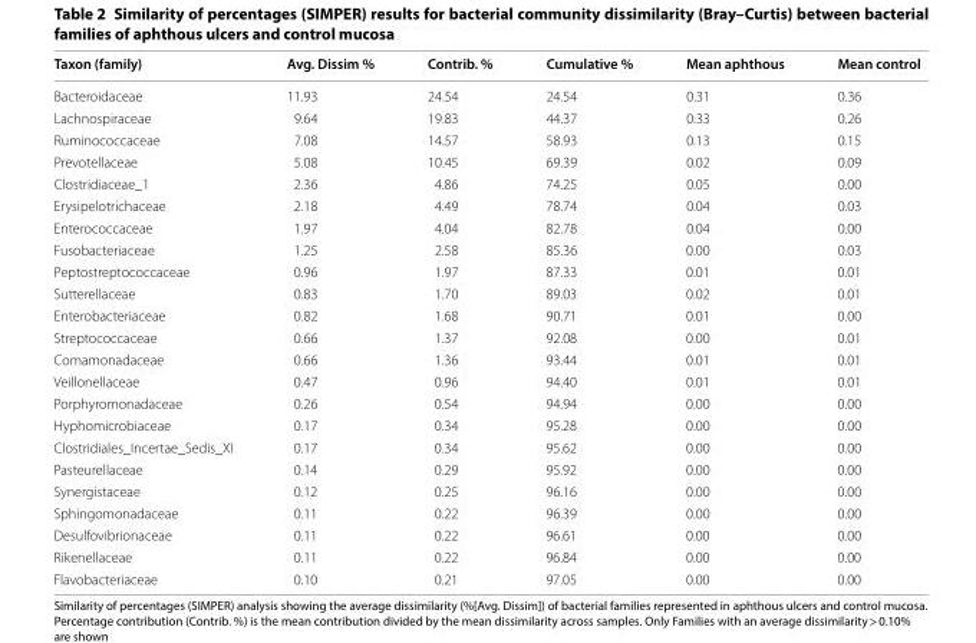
<table><thead><tr><td>Taxon (family)</td><td>Avg. Dissim %</td><td>Contrib. %</td><td>Cumulative %</td><td>Mean aphthous</td><td>Mean control</td></tr></thead><tbody><tr><td>Bacteroidaceae</td><td>11.93</td><td>24.54</td><td>24.54</td><td>0.31</td><td>0.36</td></tr><tr><td>Lachnospiraceae</td><td>9.64</td><td>19.83</td><td>44.37</td><td>0.33</td><td>0.26</td></tr><tr><td>Ruminococcaceae</td><td>7.08</td><td>14.57</td><td>58.93</td><td>0.13</td><td>0.15</td></tr><tr><td>Prevotellaceae</td><td>5.08</td><td>10.45</td><td>69.39</td><td>0.02</td><td>0.09</td></tr><tr><td>Clostridiaceae_1</td><td>2.36</td><td>4.86</td><td>74.25</td><td>0.05</td><td>0.00</td></tr><tr><td>Erysipelotrichaceae</td><td>2.18</td><td>4.49</td><td>78.74</td><td>0.04</td><td>0.03</td></tr><tr><td>Enterococcaceae</td><td>1.97</td><td>4.04</td><td>82.78</td><td>0.04</td><td>0.00</td></tr><tr><td>Fusobacteriaceae</td><td>1.25</td><td>2.58</td><td>85.36</td><td>0.00</td><td>0.03</td></tr><tr><td>Peptostreptococcaceae</td><td>0.96</td><td>1.97</td><td>87.33</td><td>0.01</td><td>0.01</td></tr><tr><td>Sutterellaceae</td><td>0.83</td><td>1.70</td><td>89.03</td><td>0.02</td><td>0.01</td></tr><tr><td>Enterobacteriaceae</td><td>0.82</td><td>1.68</td><td>90.71</td><td>0.01</td><td>0.00</td></tr><tr><td>Streptococcaceae</td><td>0.66</td><td>1.37</td><td>92.08</td><td>0.00</td><td>0.01</td></tr><tr><td>Comamonadaceae</td><td>0.66</td><td>1.36</td><td>93.44</td><td>0.01</td><td>0.01</td></tr><tr><td>Veillonellaceae</td><td>0.47</td><td>0.96</td><td>94.40</td><td>0.01</td><td>0.01</td></tr><tr><td>Porphyromonadaceae</td><td>0.26</td><td>0.54</td><td>94.94</td><td>0.00</td><td>0.00</td></tr><tr><td>Hyphomicrobiaceae</td><td>0.17</td><td>0.34</td><td>95.28</td><td>0.00</td><td>0.00</td></tr><tr><td>Clostridiales_Incertae_Sedis_XI</td><td>0.17</td><td>0.34</td><td>95.62</td><td>0.00</td><td>0.00</td></tr><tr><td>Pasteurellaceae</td><td>0.14</td><td>0.29</td><td>95.92</td><td>0.00</td><td>0.00</td></tr><tr><td>Synergistaceae</td><td>0.12</td><td>0.25</td><td>96.16</td><td>0.00</td><td>0.00</td></tr><tr><td>Sphingomonadaceae</td><td>0.11</td><td>0.22</td><td>96.39</td><td>0.00</td><td>0.00</td></tr><tr><td>Desulfovibrionaceae</td><td>0.11</td><td>0.22</td><td>96.61</td><td>0.00</td><td>0.00</td></tr><tr><td>Rikenellaceae</td><td>0.11</td><td>0.22</td><td>96.84</td><td>0.00</td><td>0.00</td></tr><tr><td>Flavobacteriaceae</td><td>0.10</td><td>0.21</td><td>97.05</td><td>0.00</td><td>0.00</td></tr></tbody></table>